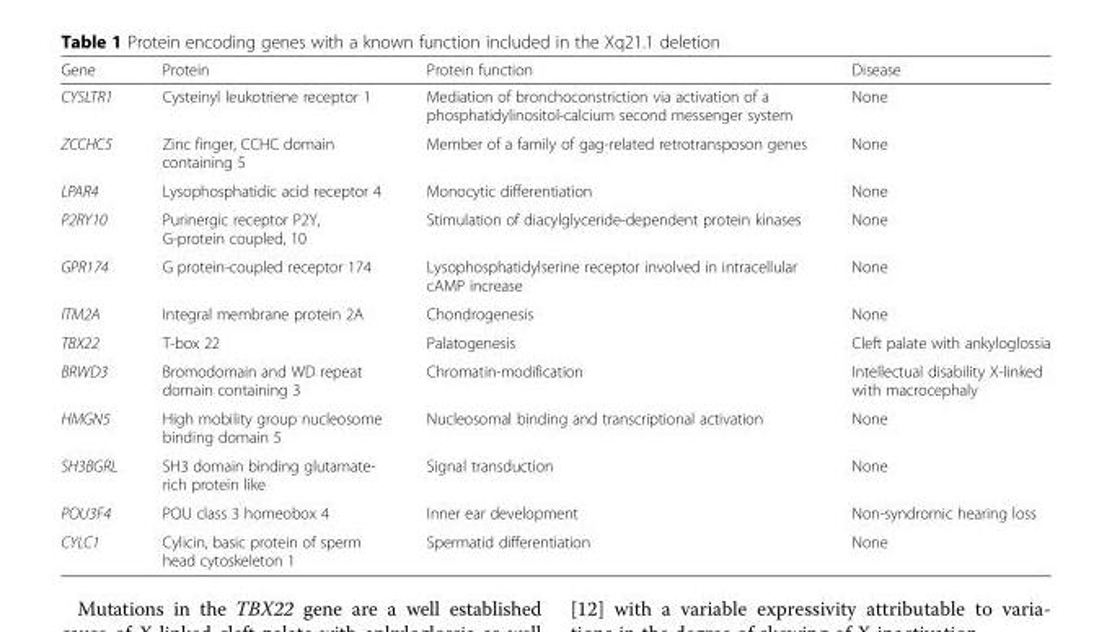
<table><thead><tr><td>Gene</td><td>Protein</td><td>Protein function</td><td>Disease</td></tr></thead><tbody><tr><td>CYSLTR1</td><td>Cysteinyl leukotriene receptor 1</td><td>Mediation of bronchoconstriction via activation of a phosphatidylinositol-calcium second messenger system</td><td>None</td></tr><tr><td>ZCCHC5</td><td>Zinc finger, CCHC domain containing 5</td><td>Member of a family of gag-related retrotransposon genes</td><td>None</td></tr><tr><td>LPAR4</td><td>Lysophosphatidic acid receptor 4</td><td>Monocytic differentiation</td><td>None</td></tr><tr><td>P2RY10</td><td>Purinergic receptor P2Y, G-protein coupled, 10</td><td>Stimulation of diacylglyceride-dependent protein kinases</td><td>None</td></tr><tr><td>GPR174</td><td>G protein-coupled receptor 174</td><td>Lysophosphatidylserine receptor involved in intracellular cAMP increase</td><td>None</td></tr><tr><td>ITM2A</td><td>Integral membrane protein 2A</td><td>Chondrogenesis</td><td>None</td></tr><tr><td>TBX22</td><td>T-box 22</td><td>Palatogenesis</td><td>Cleft palate with ankyloglossia</td></tr><tr><td>BRWD3</td><td>Bromodomain and WD repeat domain containing 3</td><td>Chromatin-modification</td><td>Intellectual disability X-linked with macrocephaly</td></tr><tr><td>HMGN5</td><td>High mobility group nucleosome binding domain 5</td><td>Nucleosomal binding and transcriptional activation</td><td>None</td></tr><tr><td>SH3BGRL</td><td>SH3 domain binding glutamate- rich protein like</td><td>Signal transduction</td><td>None</td></tr><tr><td>POU3F4</td><td>POU class 3 homeobox 4</td><td>Inner ear development</td><td>Non-syndromic hearing loss</td></tr><tr><td>CYLC1</td><td>Cylicin, basic protein of sperm head cytoskeleton 1</td><td>Spermatid differentiation</td><td>None</td></tr></tbody></table>